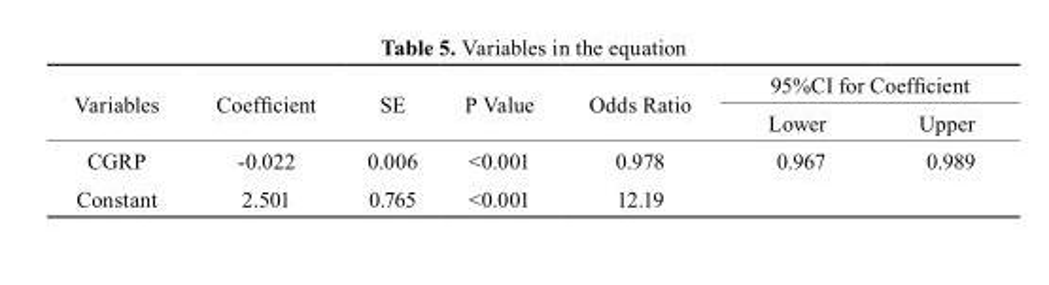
<table><thead><tr><td rowspan="2">Variables</td><td rowspan="2">Coefficient</td><td rowspan="2">SE</td><td rowspan="2">P Value</td><td rowspan="2">Odds Ratio</td><td colspan="2">95%CI for Coefficient</td></tr><tr><td>Lower</td><td>Upper</td></tr></thead><tbody><tr><td>CGRP</td><td>-0.022</td><td>0.006</td><td>&lt;0.001</td><td>0.978</td><td>0.967</td><td>0.989</td></tr><tr><td>Constant</td><td>2.501</td><td>0.765</td><td>&lt;0.001</td><td>12.19</td><td></td><td></td></tr></tbody></table>